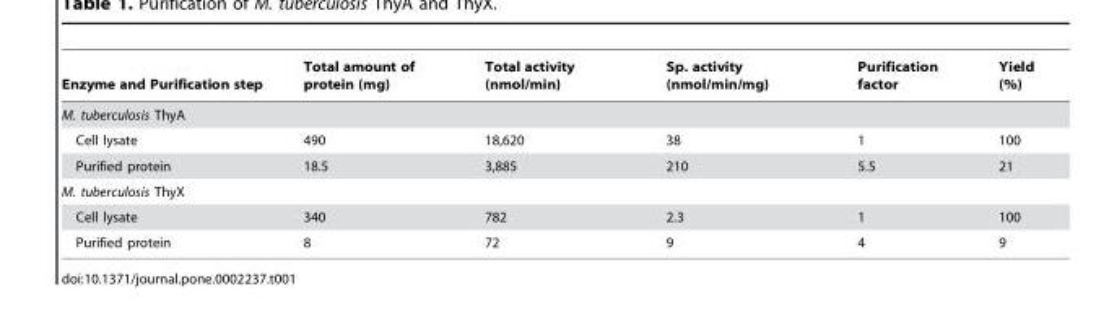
<table><thead><tr><td>Enzyme and Purification step</td><td>Total amount of protein (mg)</td><td>Total activity (nmol/min)</td><td>Sp. activity (nmol/min/mg)</td><td>Purification factor</td><td>Yield (%)</td></tr></thead><tbody><tr><td colspan="6">M. tuberculosis ThyA</td></tr><tr><td>Cell lysate</td><td>490</td><td>18,620</td><td>38</td><td>1</td><td>100</td></tr><tr><td>Purified protein</td><td>18.5</td><td>3,885</td><td>210</td><td>5.5</td><td>21</td></tr><tr><td colspan="6">M. tuberculosis ThyX</td></tr><tr><td>Cell lysate</td><td>340</td><td>782</td><td>2.3</td><td>1</td><td>100</td></tr><tr><td>Purified protein</td><td>8</td><td>72</td><td>9</td><td>4</td><td>9</td></tr></tbody></table>